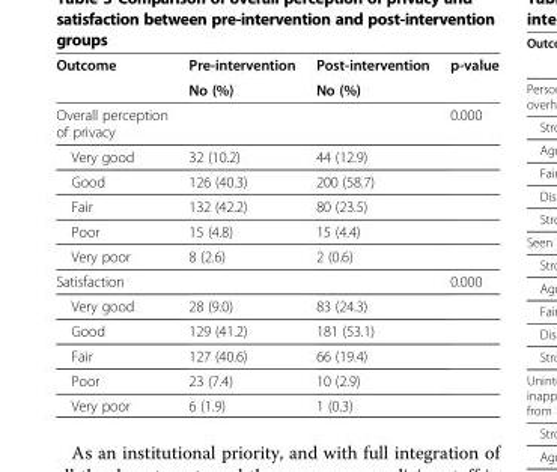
<table><thead><tr><td rowspan="2">Outcome</td><td rowspan="2">Pre-intervention No (%)</td><td rowspan="2">Post-intervention No (%)</td><td rowspan="2">p-value</td></tr><tr></tr></thead><tbody><tr><td>Overall perception of privacy</td><td></td><td></td><td>0.000</td></tr><tr><td>Very good</td><td>32 (10.2)</td><td>44 (12.9)</td><td></td></tr><tr><td>Good</td><td>126 (40.3)</td><td>200 (58.7)</td><td></td></tr><tr><td>Fair</td><td>132 (42.2)</td><td>80 (23.5)</td><td></td></tr><tr><td>Poor</td><td>15 (4.8)</td><td>15 (4.4)</td><td></td></tr><tr><td>Very poor</td><td>8 (2.6)</td><td>2 (0.6)</td><td></td></tr><tr><td>Satisfaction</td><td></td><td></td><td>0.000</td></tr><tr><td>Very good</td><td>28 (9.0)</td><td>83 (24.3)</td><td></td></tr><tr><td>Good</td><td>129 (41.2)</td><td>181 (53.1)</td><td></td></tr><tr><td>Fair</td><td>127 (40.6)</td><td>66 (19.4)</td><td></td></tr><tr><td>Poor</td><td>23 (7.4)</td><td>10 (2.9)</td><td></td></tr><tr><td>Very poor</td><td>6 (1.9)</td><td>1 (0.3)</td><td></td></tr></tbody></table>